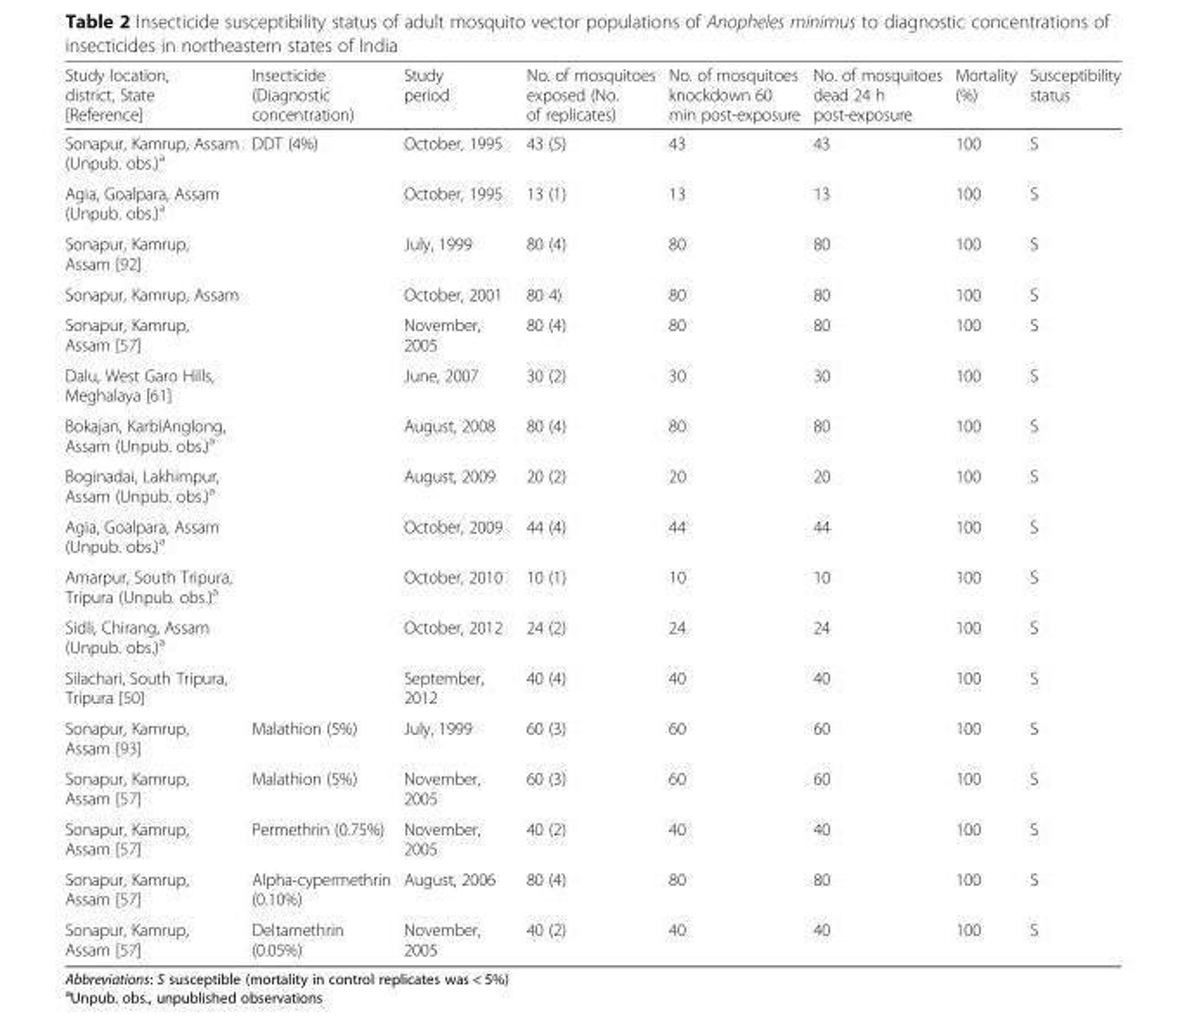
<table><thead><tr><td>Study location, district, State [Reference]</td><td>Insecticide (Diagnostic concentration)</td><td>Study period</td><td>No. of mosquitoes exposed (No. of replicates)</td><td>No. of mosquitoes knockdown 60 min post-exposure</td><td>No. of mosquitoes dead 24 h post-exposure</td><td>Mortality (%)</td><td>Susceptibility status</td></tr></thead><tbody><tr><td>Sonapur, Kamrup, Assam (Unpub. obs.)<sup>a</sup></td><td rowspan="12">DDT (4%)</td><td>October, 1995</td><td>43 (5)</td><td>43</td><td>43</td><td>100</td><td>S</td></tr><tr><td>Agia, Goalpara, Assam (Unpub. obs.)<sup>a</sup></td><td>October, 1995</td><td>13 (1)</td><td>13</td><td>13</td><td>100</td><td>S</td></tr><tr><td>Sonapur, Kamrup, Assam [92]</td><td>July, 1999</td><td>80 (4)</td><td>80</td><td>80</td><td>100</td><td>S</td></tr><tr><td>Sonapur, Kamrup, Assam</td><td>October, 2001</td><td>80 4)</td><td>80</td><td>80</td><td>100</td><td>S</td></tr><tr><td>Sonapur, Kamrup, Assam [57]</td><td>November, 2005</td><td>80 (4)</td><td>80</td><td>80</td><td>100</td><td>S</td></tr><tr><td>Dalu, West Garo Hills, Meghalaya [61]</td><td>June, 2007</td><td>30 (2)</td><td>30</td><td>30</td><td>100</td><td>S</td></tr><tr><td>Bokajan, KarbiAnglong, Assam (Unpub. obs.)<sup>a</sup></td><td>August, 2008</td><td>80 (4)</td><td>80</td><td>80</td><td>100</td><td>S</td></tr><tr><td>Boginadai, Lakhimpur, Assam (Unpub. obs.)<sup>a</sup></td><td>August, 2009</td><td>20 (2)</td><td>20</td><td>20</td><td>100</td><td>S</td></tr><tr><td>Agia, Goalpara, Assam (Unpub. obs.)<sup>a</sup></td><td>October, 2009</td><td>44 (4)</td><td>44</td><td>44</td><td>100</td><td>S</td></tr><tr><td>Amarpur, South Tripura, Tripura (Unpub. obs.)<sup>a</sup></td><td>October, 2010</td><td>10 (1)</td><td>10</td><td>10</td><td>100</td><td>S</td></tr><tr><td>Sidli, Chirang, Assam (Unpub. obs.)<sup>a</sup></td><td>October, 2012</td><td>24 (2)</td><td>24</td><td>24</td><td>100</td><td>S</td></tr><tr><td>Silachari, South Tripura, Tripura [50]</td><td>September, 2012</td><td>40 (4)</td><td>40</td><td>40</td><td>100</td><td>S</td></tr><tr><td>Sonapur, Kamrup, Assam [93]</td><td>Malathion (5%)</td><td>July, 1999</td><td>60 (3)</td><td>60</td><td>60</td><td>100</td><td>S</td></tr><tr><td>Sonapur, Kamrup, Assam [57]</td><td>Malathion (5%)</td><td>November, 2005</td><td>60 (3)</td><td>60</td><td>60</td><td>100</td><td>S</td></tr><tr><td>Sonapur, Kamrup, Assam [57]</td><td>Permethrin (0.75%)</td><td>November, 2005</td><td>40 (2)</td><td>40</td><td>40</td><td>100</td><td>S</td></tr><tr><td>Sonapur, Kamrup, Assam [57]</td><td>Alpha-cypermethrin (0.10%)</td><td>August, 2006</td><td>80 (4)</td><td>80</td><td>80</td><td>100</td><td>S</td></tr><tr><td>Sonapur, Kamrup, Assam [57]</td><td>Deltamethrin (0.05%)</td><td>November, 2005</td><td>40 (2)</td><td>40</td><td>40</td><td>100</td><td>S</td></tr></tbody></table>